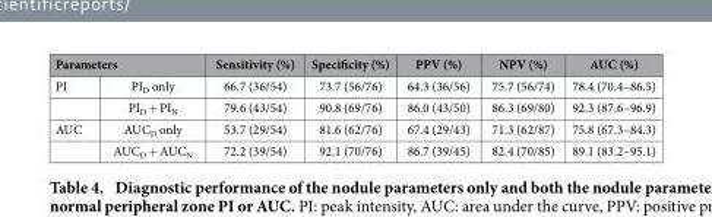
<table><thead><tr><td colspan="2">Parameters</td><td rowspan="2">Sensitivity (%) 66.7 (36/54)</td><td rowspan="2">Specificity (%) 73.7 (56/76)</td><td rowspan="2">PPV (%) 64.3 (36/56)</td><td rowspan="2">NPV (%) 75.7 (56/74)</td><td rowspan="2">AUC (%) 78.4 (70.4–86.5)</td></tr><tr><td>PI</td><td>PI<sub>D</sub> only</td></tr></thead><tbody><tr><td></td><td>PI<sub>D</sub> + PI<sub>N</sub></td><td>79.6 (43/54)</td><td>90.8 (69/76)</td><td>86.0 (43/50)</td><td>86.3 (69/80)</td><td>92.3 (87.6–96.9)</td></tr><tr><td rowspan="2">AUC</td><td>AUC<sub>D</sub> only</td><td>53.7 (29/54)</td><td>81.6 (62/76)</td><td>67.4 (29/43)</td><td>71.3 (62/87)</td><td>75.8 (67.3–84.3)</td></tr><tr><td>AUC<sub>D</sub> + AUC<sub>N</sub></td><td>72.2 (39/54)</td><td>92.1 (70/76)</td><td>86.7 (39/45)</td><td>82.4 (70/85)</td><td>89.1 (83.2–95.1)</td></tr></tbody></table>